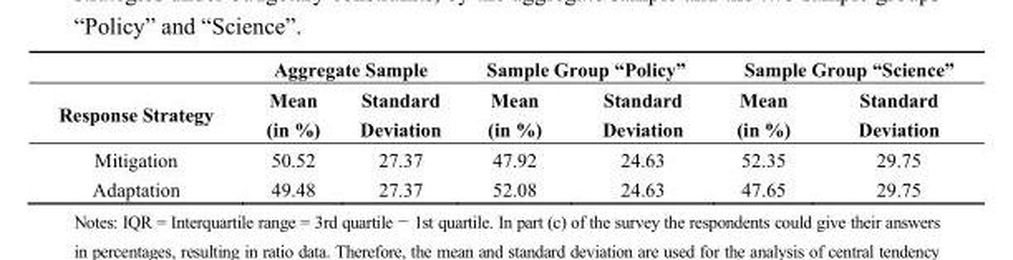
<table><thead><tr><td rowspan="2">Response Strategy</td><td colspan="2">Aggregate Sample</td><td colspan="2">Sample Group “Policy”</td><td colspan="2">Sample Group “Science”</td></tr><tr><td>Mean (in %)</td><td>Standard Deviation</td><td>Mean (in %)</td><td>Standard Deviation</td><td>Mean (in %)</td><td>Standard Deviation</td></tr></thead><tbody><tr><td>Mitigation</td><td>50.52</td><td>27.37</td><td>47.92</td><td>24.63</td><td>52.35</td><td>29.75</td></tr><tr><td>Adaptation</td><td>49.48</td><td>27.37</td><td>52.08</td><td>24.63</td><td>47.65</td><td>29.75</td></tr></tbody></table>